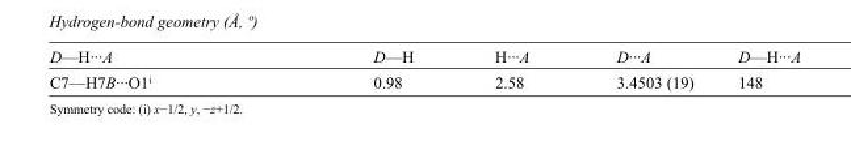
<table><tbody><tr><td>D—H···A</td><td>D—H</td><td>H···A</td><td>D···A</td><td>D—H···A</td></tr><tr><td>C7—H7B···O1<sup>i</sup></td><td>0.98</td><td>2.58</td><td>3.4503 (19)</td><td>148</td></tr></tbody></table>